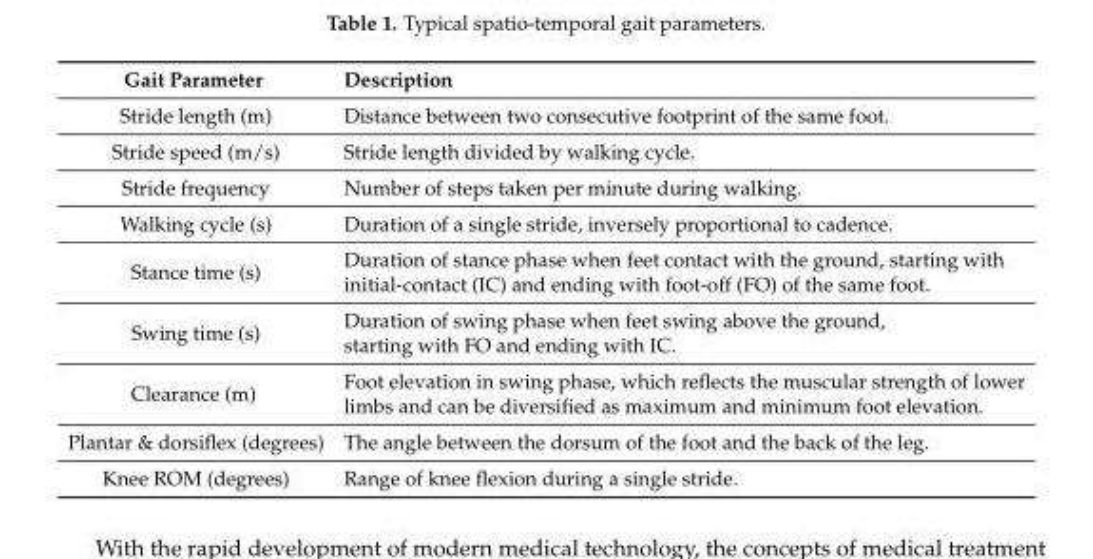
<table><thead><tr><td>Gait Parameter</td><td>Description</td></tr></thead><tbody><tr><td>Stride length (m)</td><td>Distance between two consecutive footprint of the same foot.</td></tr><tr><td>Stride speed (m/s)</td><td>Stride length divided by walking cycle.</td></tr><tr><td>Stride frequency</td><td>Number of steps taken per minute during walking.</td></tr><tr><td>Walking cycle (s)</td><td>Duration of a single stride, inversely proportional to cadence.</td></tr><tr><td>Stance time (s)</td><td>Duration of stance phase when feet contact with the ground, starting with initial-contact (IC) and ending with foot-off (FO) of the same foot.</td></tr><tr><td>Swing time (s)</td><td>Duration of swing phase when feet swing above the ground, starting with FO and ending with IC.</td></tr><tr><td>Clearance (m)</td><td>Foot elevation in swing phase, which reflects the muscular strength of lower limbs and can be diversified as maximum and minimum foot elevation.</td></tr><tr><td>Plantar &amp; dorsiflex (degrees)</td><td>The angle between the dorsum of the foot and the back of the leg.</td></tr><tr><td>Knee ROM (degrees)</td><td>Range of knee flexion during a single stride.</td></tr></tbody></table>